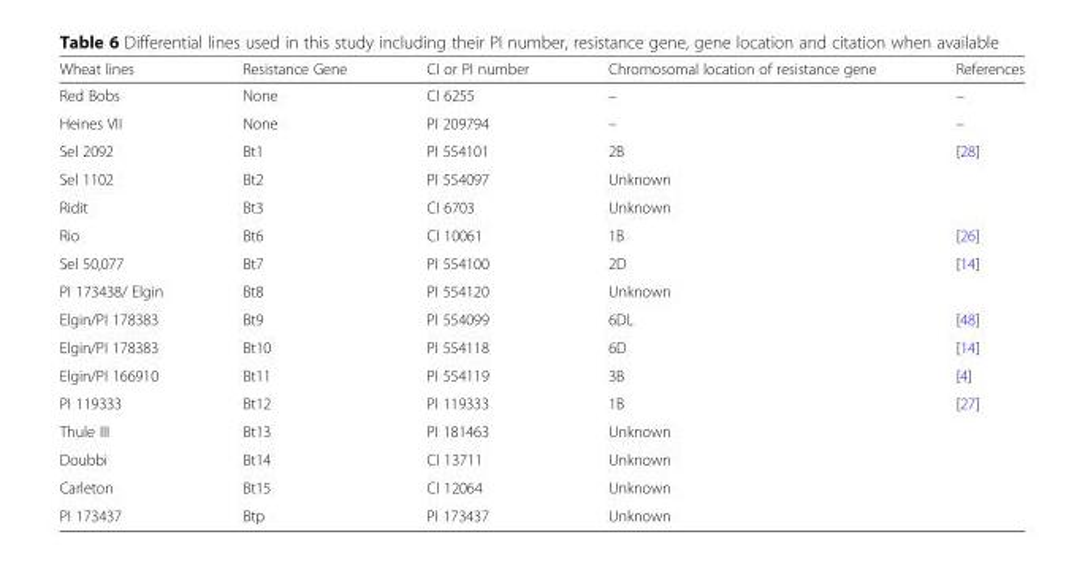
<table><thead><tr><td>Wheat lines</td><td>Resistance Gene</td><td>CI or PI number</td><td>Chromosomal location of resistance gene</td><td>References</td></tr></thead><tbody><tr><td>Red Bobs</td><td>None</td><td>CI 6255</td><td>–</td><td>–</td></tr><tr><td>Heines VII</td><td>None</td><td>PI 209794</td><td>–</td><td>–</td></tr><tr><td>Sel 2092</td><td>Bt1</td><td>PI 554101</td><td>2B</td><td>[28]</td></tr><tr><td>Sel 1102</td><td>Bt2</td><td>PI 554097</td><td>Unknown</td><td></td></tr><tr><td>Ridit</td><td>Bt3</td><td>CI 6703</td><td>Unknown</td><td></td></tr><tr><td>Rio</td><td>Bt6</td><td>CI 10061</td><td>1B</td><td>[26]</td></tr><tr><td>Sel 50,077</td><td>Bt7</td><td>PI 554100</td><td>2D</td><td>[14]</td></tr><tr><td>PI 173438/ Elgin</td><td>Bt8</td><td>PI 554120</td><td>Unknown</td><td></td></tr><tr><td>Elgin/PI 178383</td><td>Bt9</td><td>PI 554099</td><td>6DL</td><td>[48]</td></tr><tr><td>Elgin/PI 178383</td><td>Bt10</td><td>PI 554118</td><td>6D</td><td>[14]</td></tr><tr><td>Elgin/PI 166910</td><td>Bt11</td><td>PI 554119</td><td>3B</td><td>[4]</td></tr><tr><td>PI 119333</td><td>Bt12</td><td>PI 119333</td><td>1B</td><td>[27]</td></tr><tr><td>Thule III</td><td>Bt13</td><td>PI 181463</td><td>Unknown</td><td></td></tr><tr><td>Doubbi</td><td>Bt14</td><td>CI 13711</td><td>Unknown</td><td></td></tr><tr><td>Carleton</td><td>Bt15</td><td>CI 12064</td><td>Unknown</td><td></td></tr><tr><td>PI 173437</td><td>Btp</td><td>PI 173437</td><td>Unknown</td><td></td></tr></tbody></table>